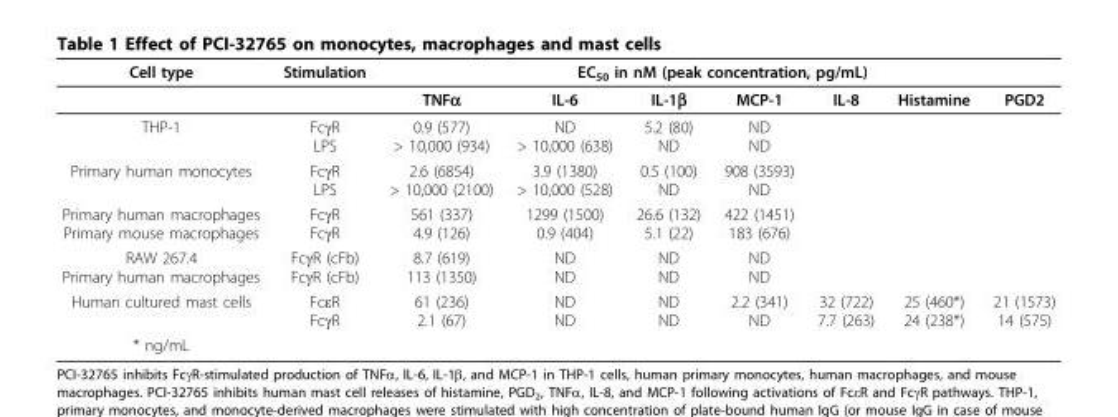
<table><thead><tr><td rowspan="2">Cell type</td><td rowspan="2">Stimulation</td><td colspan="7">EC<sub>50</sub> in nM (peak concentration, pg/mL)</td></tr><tr><td>TNFα</td><td>IL-6</td><td>IL-1β</td><td>MCP-1</td><td>IL-8</td><td>Histamine</td><td>PGD2</td></tr></thead><tbody><tr><td>THP-1</td><td>FcγR LPS</td><td>0.9 (577) &gt; 10,000 (934)</td><td>ND &gt; 10,000 (638)</td><td>5.2 (80) ND</td><td>ND ND</td><td></td><td></td><td></td></tr><tr><td>Primary human monocytes</td><td>FcγR LPS</td><td>2.6 (6854) &gt; 10,000 (2100)</td><td>3.9 (1380) &gt; 10,000 (528)</td><td>0.5 (100) ND</td><td>908 (3593) ND</td><td></td><td></td><td></td></tr><tr><td>Primary human macrophages Primary mouse macrophages</td><td>FcγR FcγR</td><td>561 (337) 4.9 (126)</td><td>1299 (1500) 0.9 (404)</td><td>26.6 (132) 5.1 (22)</td><td>422 (1451) 183 (676)</td><td></td><td></td><td></td></tr><tr><td>RAW 267.4 Primary human macrophages</td><td>FcγR (cFb) FcγR (cFb)</td><td>8.7 (619) 113 (1350)</td><td>ND ND</td><td>ND ND</td><td>ND ND</td><td></td><td></td><td></td></tr><tr><td>Human cultured mast cells</td><td>FcεR FcγR</td><td>61 (236) 2.1 (67)</td><td>ND ND</td><td>ND ND</td><td>2.2 (341) ND</td><td>32 (722) 7.7 (263)</td><td>25 (460*) 24 (238*)</td><td>21 (1573) 14 (575)</td></tr><tr><td>* ng/mL</td><td></td><td></td><td></td><td></td><td></td><td></td><td></td><td></td></tr></tbody></table>